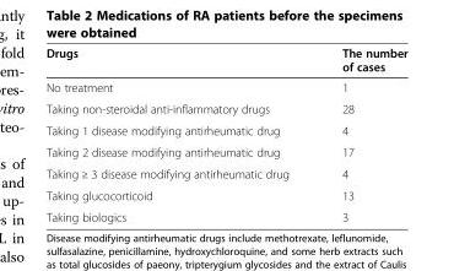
<table><thead><tr><td>Drugs</td><td>The number of cases</td></tr></thead><tbody><tr><td>No treatment</td><td>1</td></tr><tr><td>Taking non-steroidal anti-inflammatory drugs</td><td>28</td></tr><tr><td>Taking 1 disease modifying antirheumatic drug</td><td>4</td></tr><tr><td>Taking 2 disease modifying antirheumatic drug</td><td>17</td></tr><tr><td>Taking ≥ 3 disease modifying antirheumatic drug</td><td>4</td></tr><tr><td>Taking glucocorticoid</td><td>13</td></tr><tr><td>Taking biologics</td><td>3</td></tr></tbody></table>